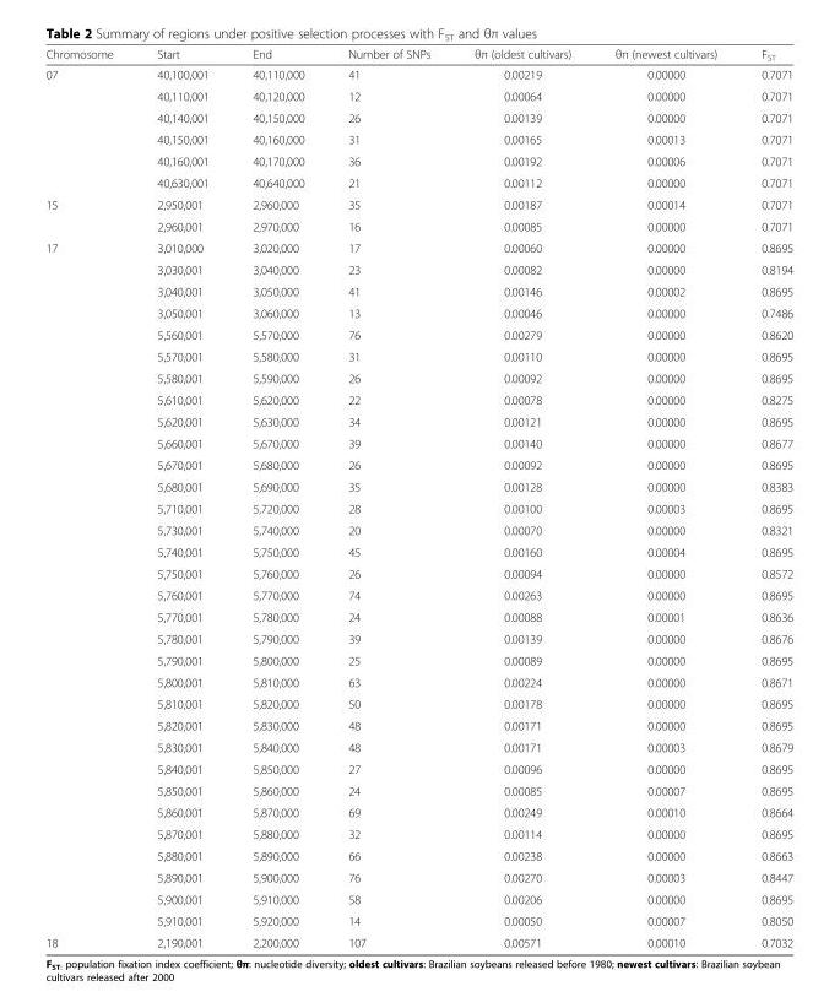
<table><thead><tr><td>Chromosome</td><td>Start</td><td>End</td><td>Number of SNPs</td><td>θπ (oldest cultivars)</td><td>θπ (newest cultivars)</td><td>F<sub>ST</sub></td></tr></thead><tbody><tr><td rowspan="6">07</td><td>40,100,001</td><td>40,110,000</td><td>41</td><td>0.00219</td><td>0.00000</td><td>0.7071</td></tr><tr><td>40,110,001</td><td>40,120,000</td><td>12</td><td>0.00064</td><td>0.00000</td><td>0.7071</td></tr><tr><td>40,140,001</td><td>40,150,000</td><td>26</td><td>0.00139</td><td>0.00000</td><td>0.7071</td></tr><tr><td>40,150,001</td><td>40,160,000</td><td>31</td><td>0.00165</td><td>0.00013</td><td>0.7071</td></tr><tr><td>40,160,001</td><td>40,170,000</td><td>36</td><td>0.00192</td><td>0.00006</td><td>0.7071</td></tr><tr><td>40,630,001</td><td>40,640,000</td><td>21</td><td>0.00112</td><td>0.00000</td><td>0.7071</td></tr><tr><td rowspan="2">15</td><td>2,950,001</td><td>2,960,000</td><td>35</td><td>0.00187</td><td>0.00014</td><td>0.7071</td></tr><tr><td>2,960,001</td><td>2,970,000</td><td>16</td><td>0.00085</td><td>0.00000</td><td>0.7071</td></tr><tr><td rowspan="32">17</td><td>3,010,000</td><td>3,020,000</td><td>17</td><td>0.00060</td><td>0.00000</td><td>0.8695</td></tr><tr><td>3,030,001</td><td>3,040,000</td><td>23</td><td>0.00082</td><td>0.00000</td><td>0.8194</td></tr><tr><td>3,040,001</td><td>3,050,000</td><td>41</td><td>0.00146</td><td>0.00002</td><td>0.8695</td></tr><tr><td>3,050,001</td><td>3,060,000</td><td>13</td><td>0.00046</td><td>0.00000</td><td>0.7486</td></tr><tr><td>5,560,001</td><td>5,570,000</td><td>76</td><td>0.00279</td><td>0.00000</td><td>0.8620</td></tr><tr><td>5,570,001</td><td>5,580,000</td><td>31</td><td>0.00110</td><td>0.00000</td><td>0.8695</td></tr><tr><td>5,580,001</td><td>5,590,000</td><td>26</td><td>0.00092</td><td>0.00000</td><td>0.8695</td></tr><tr><td>5,610,001</td><td>5,620,000</td><td>22</td><td>0.00078</td><td>0.00000</td><td>0.8275</td></tr><tr><td>5,620,001</td><td>5,630,000</td><td>34</td><td>0.00121</td><td>0.00000</td><td>0.8695</td></tr><tr><td>5,660,001</td><td>5,670,000</td><td>39</td><td>0.00140</td><td>0.00000</td><td>0.8677</td></tr><tr><td>5,670,001</td><td>5,680,000</td><td>26</td><td>0.00092</td><td>0.00000</td><td>0.8695</td></tr><tr><td>5,680,001</td><td>5,690,000</td><td>35</td><td>0.00128</td><td>0.00000</td><td>0.8383</td></tr><tr><td>5,710,001</td><td>5,720,000</td><td>28</td><td>0.00100</td><td>0.00003</td><td>0.8695</td></tr><tr><td>5,730,001</td><td>5,740,000</td><td>20</td><td>0.00070</td><td>0.00000</td><td>0.8321</td></tr><tr><td>5,740,001</td><td>5,750,000</td><td>45</td><td>0.00160</td><td>0.00004</td><td>0.8695</td></tr><tr><td>5,750,001</td><td>5,760,000</td><td>26</td><td>0.00094</td><td>0.00000</td><td>0.8572</td></tr><tr><td>5,760,001</td><td>5,770,000</td><td>74</td><td>0.00263</td><td>0.00000</td><td>0.8695</td></tr><tr><td>5,770,001</td><td>5,780,000</td><td>24</td><td>0.00088</td><td>0.00001</td><td>0.8636</td></tr><tr><td>5,780,001</td><td>5,790,000</td><td>39</td><td>0.00139</td><td>0.00000</td><td>0.8676</td></tr><tr><td>5,790,001</td><td>5,800,000</td><td>25</td><td>0.00089</td><td>0.00000</td><td>0.8695</td></tr><tr><td>5,800,001</td><td>5,810,000</td><td>63</td><td>0.00224</td><td>0.00000</td><td>0.8671</td></tr><tr><td>5,810,001</td><td>5,820,000</td><td>50</td><td>0.00178</td><td>0.00000</td><td>0.8695</td></tr><tr><td>5,820,001</td><td>5,830,000</td><td>48</td><td>0.00171</td><td>0.00000</td><td>0.8695</td></tr><tr><td>5,830,001</td><td>5,840,000</td><td>48</td><td>0.00171</td><td>0.00003</td><td>0.8679</td></tr><tr><td>5,840,001</td><td>5,850,000</td><td>27</td><td>0.00096</td><td>0.00000</td><td>0.8695</td></tr><tr><td>5,850,001</td><td>5,860,000</td><td>24</td><td>0.00085</td><td>0.00007</td><td>0.8695</td></tr><tr><td>5,860,001</td><td>5,870,000</td><td>69</td><td>0.00249</td><td>0.00010</td><td>0.8664</td></tr><tr><td>5,870,001</td><td>5,880,000</td><td>32</td><td>0.00114</td><td>0.00000</td><td>0.8695</td></tr><tr><td>5,880,001</td><td>5,890,000</td><td>66</td><td>0.00238</td><td>0.00000</td><td>0.8663</td></tr><tr><td>5,890,001</td><td>5,900,000</td><td>76</td><td>0.00270</td><td>0.00003</td><td>0.8447</td></tr><tr><td>5,900,001</td><td>5,910,000</td><td>58</td><td>0.00206</td><td>0.00000</td><td>0.8695</td></tr><tr><td>5,910,001</td><td>5,920,000</td><td>14</td><td>0.00050</td><td>0.00007</td><td>0.8050</td></tr><tr><td>18</td><td>2,190,001</td><td>2,200,000</td><td>107</td><td>0.00571</td><td>0.00010</td><td>0.7032</td></tr></tbody></table>